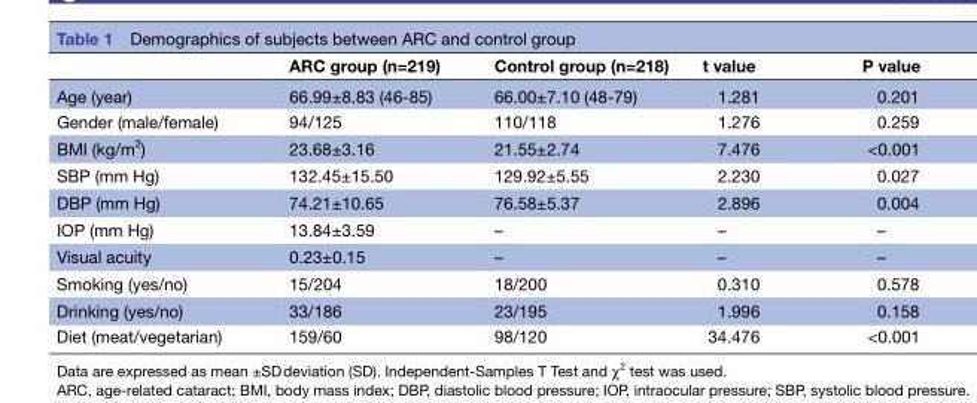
<table><thead><tr><td></td><td>ARC group (n=219)</td><td>Control group (n=218)</td><td>t value</td><td>P value</td></tr></thead><tbody><tr><td>Age (year)</td><td>66.99±8.83 (46-85)</td><td>66.00±7.10 (48-79)</td><td>1.281</td><td>0.201</td></tr><tr><td>Gender (male/female)</td><td>94/125</td><td>110/118</td><td>1.276</td><td>0.259</td></tr><tr><td>BMI (kg/m<sup>2</sup>)</td><td>23.68±3.16</td><td>21.55±2.74</td><td>7.476</td><td>&lt;0.001</td></tr><tr><td>SBP (mm Hg)</td><td>132.45±15.50</td><td>129.92±5.55</td><td>2.230</td><td>0.027</td></tr><tr><td>DBP (mm Hg)</td><td>74.21±10.65</td><td>76.58±5.37</td><td>2.896</td><td>0.004</td></tr><tr><td>IOP (mm Hg)</td><td>13.84±3.59</td><td>–</td><td>–</td><td>–</td></tr><tr><td>Visual acuity</td><td>0.23±0.15</td><td>–</td><td>–</td><td>–</td></tr><tr><td>Smoking (yes/no)</td><td>15/204</td><td>18/200</td><td>0.310</td><td>0.578</td></tr><tr><td>Drinking (yes/no)</td><td>33/186</td><td>23/195</td><td>1.996</td><td>0.158</td></tr><tr><td>Diet (meat/vegetarian)</td><td>159/60</td><td>98/120</td><td>34.476</td><td>&lt;0.001</td></tr></tbody></table>